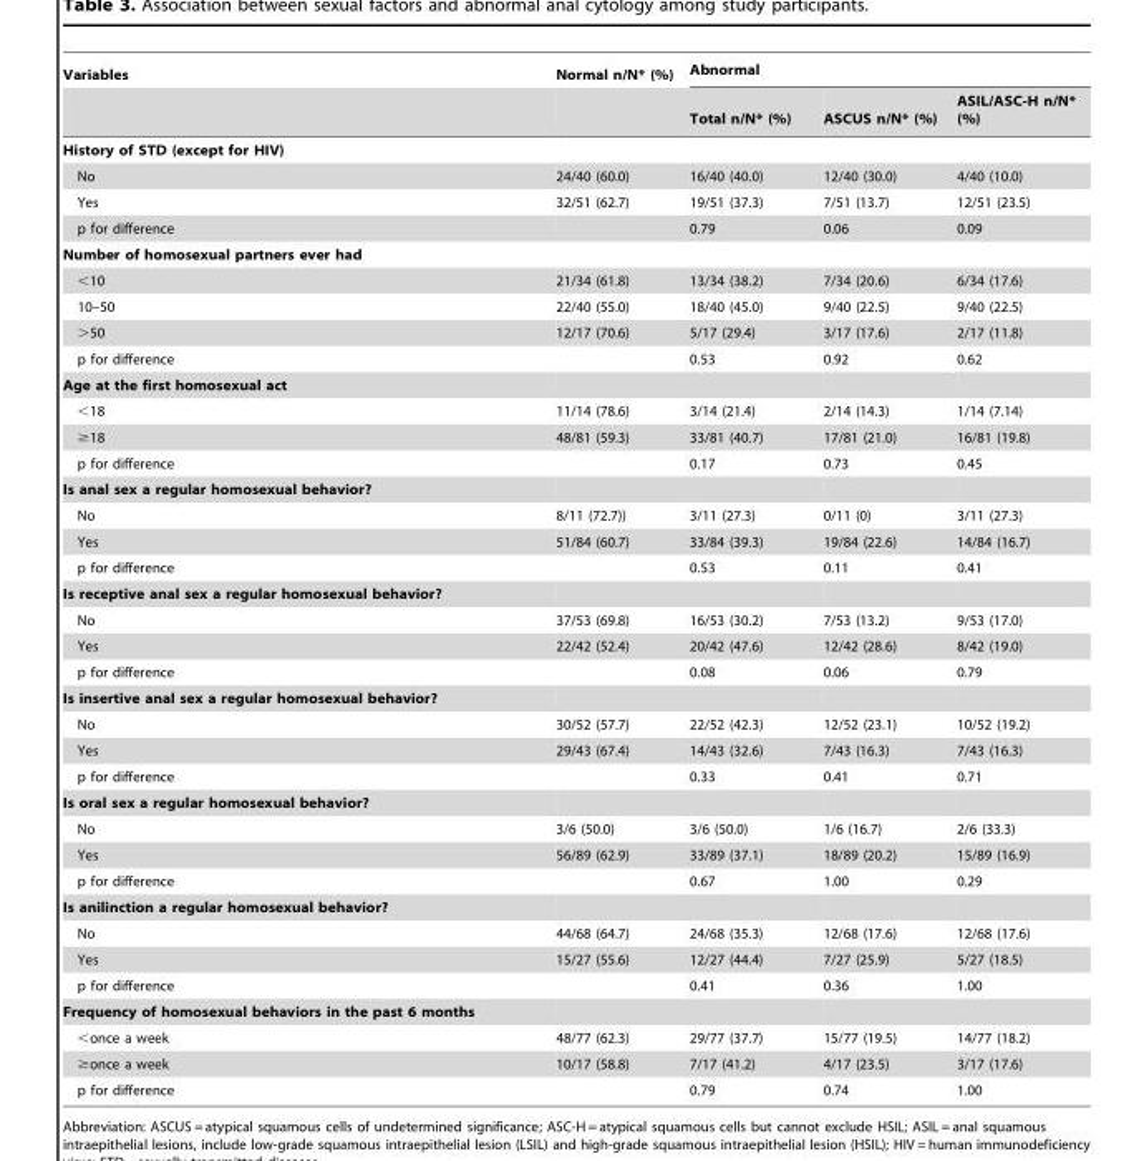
<table><thead><tr><td rowspan="2">Variables</td><td rowspan="2">Normal n/N* (%)</td><td colspan="3">Abnormal</td></tr><tr><td>Total n/N* (%)</td><td>ASCUS n/N* (%)</td><td>ASIL/ASC-H n/N* (%)</td></tr></thead><tbody><tr><td colspan="5">History of STD (except for HIV)</td></tr><tr><td>No</td><td>24/40 (60.0)</td><td>16/40 (40.0)</td><td>12/40 (30.0)</td><td>4/40 (10.0)</td></tr><tr><td>Yes</td><td>32/51 (62.7)</td><td>19/51 (37.3)</td><td>7/51 (13.7)</td><td>12/51 (23.5)</td></tr><tr><td>p for difference</td><td></td><td>0.79</td><td>0.06</td><td>0.09</td></tr><tr><td colspan="5">Number of homosexual partners ever had</td></tr><tr><td>&lt;10</td><td>21/34 (61.8)</td><td>13/34 (38.2)</td><td>7/34 (20.6)</td><td>6/34 (17.6)</td></tr><tr><td>10–50</td><td>22/40 (55.0)</td><td>18/40 (45.0)</td><td>9/40 (22.5)</td><td>9/40 (22.5)</td></tr><tr><td>&gt;50</td><td>12/17 (70.6)</td><td>5/17 (29.4)</td><td>3/17 (17.6)</td><td>2/17 (11.8)</td></tr><tr><td>p for difference</td><td></td><td>0.53</td><td>0.92</td><td>0.62</td></tr><tr><td colspan="5">Age at the first homosexual act</td></tr><tr><td>&lt;18</td><td>11/14 (78.6)</td><td>3/14 (21.4)</td><td>2/14 (14.3)</td><td>1/14 (7.14)</td></tr><tr><td>≥18</td><td>48/81 (59.3)</td><td>33/81 (40.7)</td><td>17/81 (21.0)</td><td>16/81 (19.8)</td></tr><tr><td>p for difference</td><td></td><td>0.17</td><td>0.73</td><td>0.45</td></tr><tr><td colspan="5">Is anal sex a regular homosexual behavior?</td></tr><tr><td>No</td><td>8/11 (72.7))</td><td>3/11 (27.3)</td><td>0/11 (0)</td><td>3/11 (27.3)</td></tr><tr><td>Yes</td><td>51/84 (60.7)</td><td>33/84 (39.3)</td><td>19/84 (22.6)</td><td>14/84 (16.7)</td></tr><tr><td>p for difference</td><td></td><td>0.53</td><td>0.11</td><td>0.41</td></tr><tr><td colspan="5">Is receptive anal sex a regular homosexual behavior?</td></tr><tr><td>No</td><td>37/53 (69.8)</td><td>16/53 (30.2)</td><td>7/53 (13.2)</td><td>9/53 (17.0)</td></tr><tr><td>Yes</td><td>22/42 (52.4)</td><td>20/42 (47.6)</td><td>12/42 (28.6)</td><td>8/42 (19.0)</td></tr><tr><td>p for difference</td><td></td><td>0.08</td><td>0.06</td><td>0.79</td></tr><tr><td colspan="5">Is insertive anal sex a regular homosexual behavior?</td></tr><tr><td>No</td><td>30/52 (57.7)</td><td>22/52 (42.3)</td><td>12/52 (23.1)</td><td>10/52 (19.2)</td></tr><tr><td>Yes</td><td>29/43 (67.4)</td><td>14/43 (32.6)</td><td>7/43 (16.3)</td><td>7/43 (16.3)</td></tr><tr><td>p for difference</td><td></td><td>0.33</td><td>0.41</td><td>0.71</td></tr><tr><td colspan="5">Is oral sex a regular homosexual behavior?</td></tr><tr><td>No</td><td>3/6 (50.0)</td><td>3/6 (50.0)</td><td>1/6 (16.7)</td><td>2/6 (33.3)</td></tr><tr><td>Yes</td><td>56/89 (62.9)</td><td>33/89 (37.1)</td><td>18/89 (20.2)</td><td>15/89 (16.9)</td></tr><tr><td>p for difference</td><td></td><td>0.67</td><td>1.00</td><td>0.29</td></tr><tr><td colspan="5">Is anilinction a regular homosexual behavior?</td></tr><tr><td>No</td><td>44/68 (64.7)</td><td>24/68 (35.3)</td><td>12/68 (17.6)</td><td>12/68 (17.6)</td></tr><tr><td>Yes</td><td>15/27 (55.6)</td><td>12/27 (44.4)</td><td>7/27 (25.9)</td><td>5/27 (18.5)</td></tr><tr><td>p for difference</td><td></td><td>0.41</td><td>0.36</td><td>1.00</td></tr><tr><td colspan="5">Frequency of homosexual behaviors in the past 6 months</td></tr><tr><td>&lt;once a week</td><td>48/77 (62.3)</td><td>29/77 (37.7)</td><td>15/77 (19.5)</td><td>14/77 (18.2)</td></tr><tr><td>≥once a week</td><td>10/17 (58.8)</td><td>7/17 (41.2)</td><td>4/17 (23.5)</td><td>3/17 (17.6)</td></tr><tr><td>p for difference</td><td></td><td>0.79</td><td>0.74</td><td>1.00</td></tr></tbody></table>